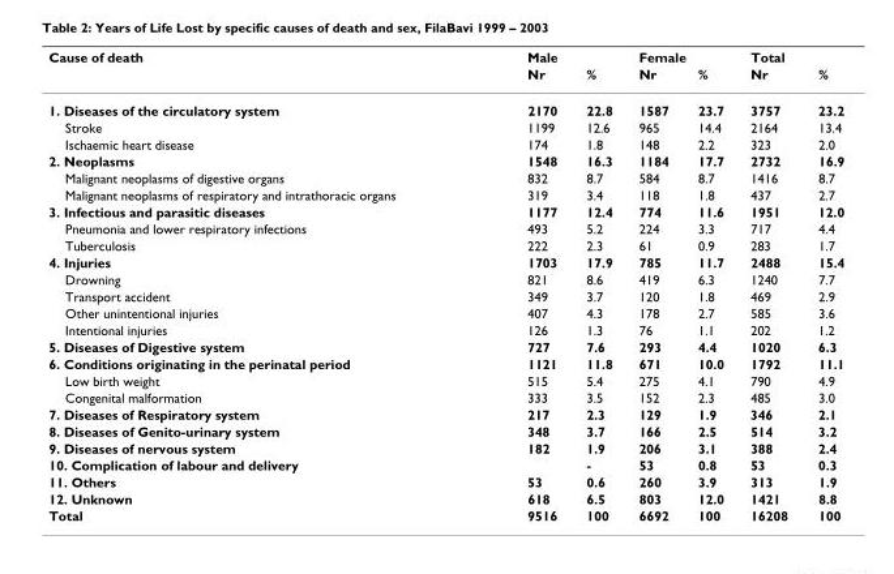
<table><thead><tr><td rowspan="2">Cause of death</td><td colspan="2">Male</td><td colspan="2">Female</td><td colspan="2">Total</td></tr><tr><td>Nr</td><td>%</td><td>Nr</td><td>%</td><td>Nr</td><td>%</td></tr></thead><tbody><tr><td>1. Diseases of the circulatory system</td><td>2170</td><td>22.8</td><td>1587</td><td>23.7</td><td>3757</td><td>23.2</td></tr><tr><td>Stroke</td><td>1199</td><td>12.6</td><td>965</td><td>14.4</td><td>2164</td><td>13.4</td></tr><tr><td>Ischaemic heart disease</td><td>174</td><td>1.8</td><td>148</td><td>2.2</td><td>323</td><td>2.0</td></tr><tr><td>2. Neoplasms</td><td>1548</td><td>16.3</td><td>1184</td><td>17.7</td><td>2732</td><td>16.9</td></tr><tr><td>Malignant neoplasms of digestive organs</td><td>832</td><td>8.7</td><td>584</td><td>8.7</td><td>1416</td><td>8.7</td></tr><tr><td>Malignant neoplasms of respiratory and intrathoracic organs</td><td>319</td><td>3.4</td><td>118</td><td>1.8</td><td>437</td><td>2.7</td></tr><tr><td>3. Infectious and parasitic diseases</td><td>1177</td><td>12.4</td><td>774</td><td>11.6</td><td>1951</td><td>12.0</td></tr><tr><td>Pneumonia and lower respiratory infections</td><td>493</td><td>5.2</td><td>224</td><td>3.3</td><td>717</td><td>4.4</td></tr><tr><td>Tuberculosis</td><td>222</td><td>2.3</td><td>61</td><td>0.9</td><td>283</td><td>1.7</td></tr><tr><td>4. Injuries</td><td>1703</td><td>17.9</td><td>785</td><td>11.7</td><td>2488</td><td>15.4</td></tr><tr><td>Drowning</td><td>821</td><td>8.6</td><td>419</td><td>6.3</td><td>1240</td><td>7.7</td></tr><tr><td>Transport accident</td><td>349</td><td>3.7</td><td>120</td><td>1.8</td><td>469</td><td>2.9</td></tr><tr><td>Other unintentional injuries</td><td>407</td><td>4.3</td><td>178</td><td>2.7</td><td>585</td><td>3.6</td></tr><tr><td>Intentional injuries</td><td>126</td><td>1.3</td><td>76</td><td>1.1</td><td>202</td><td>1.2</td></tr><tr><td>5. Diseases of Digestive system</td><td>727</td><td>7.6</td><td>293</td><td>4.4</td><td>1020</td><td>6.3</td></tr><tr><td>6. Conditions originating in the perinatal period</td><td>1121</td><td>11.8</td><td>671</td><td>10.0</td><td>1792</td><td>11.1</td></tr><tr><td>Low birth weight</td><td>515</td><td>5.4</td><td>275</td><td>4.1</td><td>790</td><td>4.9</td></tr><tr><td>Congenital malformation</td><td>333</td><td>3.5</td><td>152</td><td>2.3</td><td>485</td><td>3.0</td></tr><tr><td>7. Diseases of Respiratory system</td><td>217</td><td>2.3</td><td>129</td><td>1.9</td><td>346</td><td>2.1</td></tr><tr><td>8. Diseases of Genito-urinary system</td><td>348</td><td>3.7</td><td>166</td><td>2.5</td><td>514</td><td>3.2</td></tr><tr><td>9. Diseases of nervous system</td><td>182</td><td>1.9</td><td>206</td><td>3.1</td><td>388</td><td>2.4</td></tr><tr><td>10. Complication of labour and delivery</td><td></td><td>-</td><td>53</td><td>0.8</td><td>53</td><td>0.3</td></tr><tr><td>11. Others</td><td>53</td><td>0.6</td><td>260</td><td>3.9</td><td>313</td><td>1.9</td></tr><tr><td>12. Unknown</td><td>618</td><td>6.5</td><td>803</td><td>12.0</td><td>1421</td><td>8.8</td></tr><tr><td>Total</td><td>9516</td><td>100</td><td>6692</td><td>100</td><td>16208</td><td>100</td></tr></tbody></table>